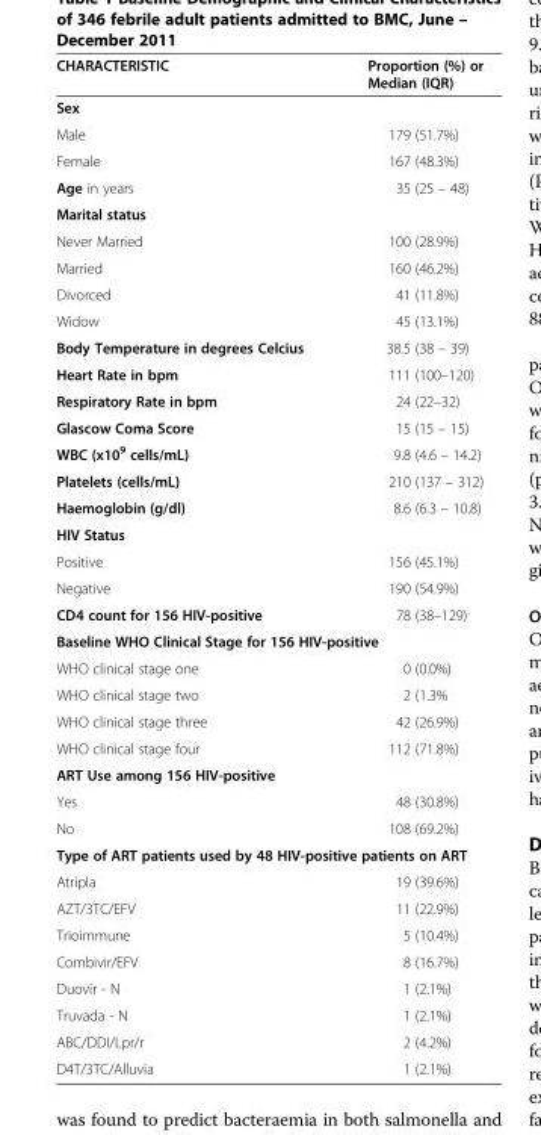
<table><thead><tr><td>CHARACTERISTIC</td><td>Proportion (%) or Median (IQR)</td></tr></thead><tbody><tr><td colspan="2">Sex</td></tr><tr><td>Male</td><td>179 (51.7%)</td></tr><tr><td>Female</td><td>167 (48.3%)</td></tr><tr><td>Age in years</td><td>35 (25 – 48)</td></tr><tr><td colspan="2">Marital status</td></tr><tr><td>Never Married</td><td>100 (28.9%)</td></tr><tr><td>Married</td><td>160 (46.2%)</td></tr><tr><td>Divorced</td><td>41 (11.8%)</td></tr><tr><td>Widow</td><td>45 (13.1%)</td></tr><tr><td>Body Temperature in degrees Celcius</td><td>38.5 (38 – 39)</td></tr><tr><td>Heart Rate in bpm</td><td>111 (100–120)</td></tr><tr><td>Respiratory Rate in bpm</td><td>24 (22–32)</td></tr><tr><td>Glascow Coma Score</td><td>15 (15 – 15)</td></tr><tr><td>WBC (x10<sup>9</sup> cells/mL)</td><td>9.8 (4.6 – 14.2)</td></tr><tr><td>Platelets (cells/mL)</td><td>210 (137 – 312)</td></tr><tr><td>Haemoglobin (g/dl)</td><td>8.6 (6.3 – 10.8)</td></tr><tr><td colspan="2">HIV Status</td></tr><tr><td>Positive</td><td>156 (45.1%)</td></tr><tr><td>Negative</td><td>190 (54.9%)</td></tr><tr><td>CD4 count for 156 HIV-positive</td><td>78 (38–129)</td></tr><tr><td colspan="2">Baseline WHO Clinical Stage for 156 HIV-positive</td></tr><tr><td>WHO clinical stage one</td><td>0 (0.0%)</td></tr><tr><td>WHO clinical stage two</td><td>2 (1.3%</td></tr><tr><td>WHO clinical stage three</td><td>42 (26.9%)</td></tr><tr><td>WHO clinical stage four</td><td>112 (71.8%)</td></tr><tr><td colspan="2">ART Use among 156 HIV-positive</td></tr><tr><td>Yes</td><td>48 (30.8%)</td></tr><tr><td>No</td><td>108 (69.2%)</td></tr><tr><td colspan="2">Type of ART patients used by 48 HIV-positive patients on ART</td></tr><tr><td>Atripla</td><td>19 (39.6%)</td></tr><tr><td>AZT/3TC/EFV</td><td>11 (22.9%)</td></tr><tr><td>Trioimmune</td><td>5 (10.4%)</td></tr><tr><td>Combivir/EFV</td><td>8 (16.7%)</td></tr><tr><td>Duovir - N</td><td>1 (2.1%)</td></tr><tr><td>Truvada - N</td><td>1 (2.1%)</td></tr><tr><td>ABC/DDI/Lpr/r</td><td>2 (4.2%)</td></tr><tr><td>D4T/3TC/Alluvia</td><td>1 (2.1%)</td></tr></tbody></table>